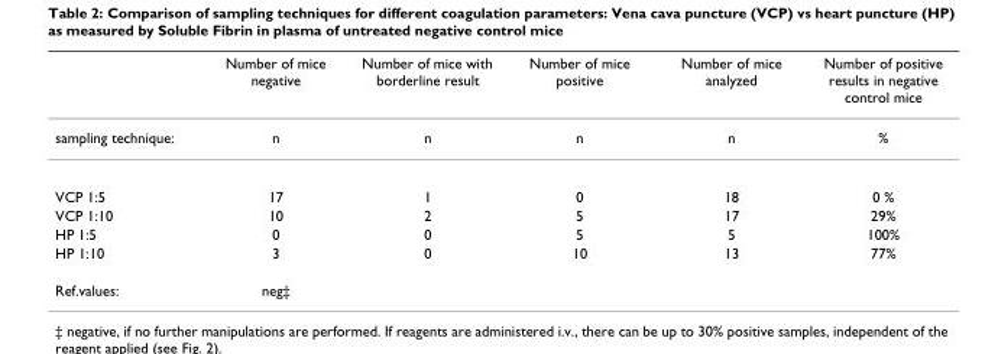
<table><thead><tr><td></td><td>Number of mice negative</td><td>Number of mice with borderline result</td><td>Number of mice positive</td><td>Number of mice analyzed</td><td>Number of positive results in negative control mice</td></tr></thead><tbody><tr><td>sampling technique:</td><td>n</td><td>n</td><td>n</td><td>n</td><td>%</td></tr><tr><td>VCP 1:5</td><td>17</td><td>1</td><td>0</td><td>18</td><td>0 %</td></tr><tr><td>VCP 1:10</td><td>10</td><td>2</td><td>5</td><td>17</td><td>29%</td></tr><tr><td>HP 1:5</td><td>0</td><td>0</td><td>5</td><td>5</td><td>100%</td></tr><tr><td>HP 1:10</td><td>3</td><td>0</td><td>10</td><td>13</td><td>77%</td></tr><tr><td>Ref.values:</td><td>neg‡</td><td></td><td></td><td></td><td></td></tr></tbody></table>